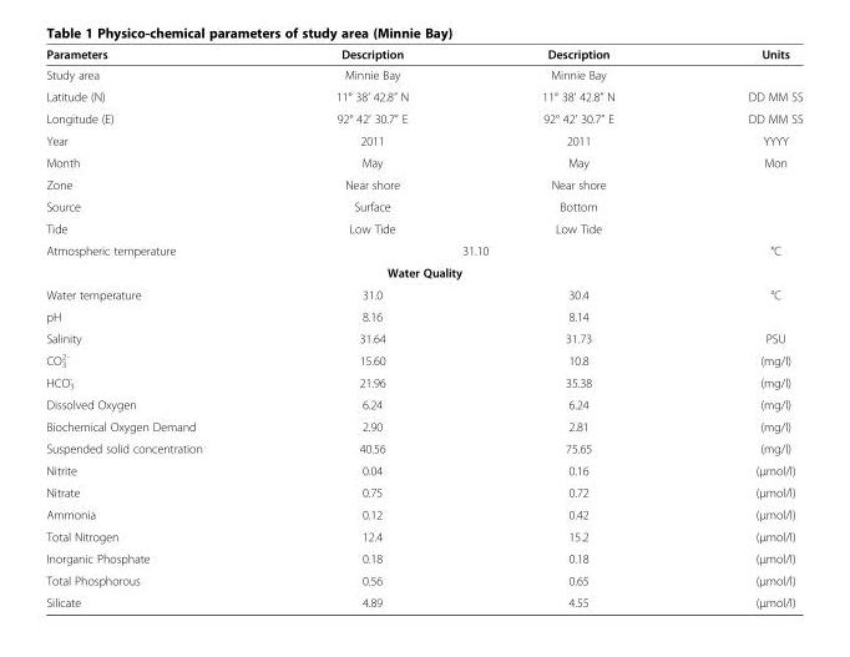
<table><thead><tr><td>Parameters</td><td>Description</td><td>Description</td><td>Units</td></tr></thead><tbody><tr><td>Study area</td><td>Minnie Bay</td><td>Minnie Bay</td><td></td></tr><tr><td>Latitude (N)</td><td>11° 38’ 42.8” N</td><td>11° 38’ 42.8” N</td><td>DD MM SS</td></tr><tr><td>Longitude (E)</td><td>92° 42’ 30.7” E</td><td>92° 42’ 30.7” E</td><td>DD MM SS</td></tr><tr><td>Year</td><td>2011</td><td>2011</td><td>YYYY</td></tr><tr><td>Month</td><td>May</td><td>May</td><td>Mon</td></tr><tr><td>Zone</td><td>Near shore</td><td>Near shore</td><td></td></tr><tr><td>Source</td><td>Surface</td><td>Bottom</td><td></td></tr><tr><td>Tide</td><td>Low Tide</td><td>Low Tide</td><td></td></tr><tr><td>Atmospheric temperature</td><td colspan="2">31.10</td><td>°C</td></tr><tr><td colspan="4">Water Quality</td></tr><tr><td>Water temperature</td><td>31.0</td><td>30.4</td><td>°C</td></tr><tr><td>pH</td><td>8.16</td><td>8.14</td><td></td></tr><tr><td>Salinity</td><td>31.64</td><td>31.73</td><td>PSU</td></tr><tr><td>CO<sub>3</sub> <sup>2-</sup></td><td>15.60</td><td>10.8</td><td>(mg/l)</td></tr><tr><td>HCO<sub>3</sub> <sup>-</sup></td><td>21.96</td><td>35.38</td><td>(mg/l)</td></tr><tr><td>Dissolved Oxygen</td><td>6.24</td><td>6.24</td><td>(mg/l)</td></tr><tr><td>Biochemical Oxygen Demand</td><td>2.90</td><td>2.81</td><td>(mg/l)</td></tr><tr><td>Suspended solid concentration</td><td>40.56</td><td>75.65</td><td>(mg/l)</td></tr><tr><td>Nitrite</td><td>0.04</td><td>0.16</td><td>(μmol/l)</td></tr><tr><td>Nitrate</td><td>0.75</td><td>0.72</td><td>(μmol/l)</td></tr><tr><td>Ammonia</td><td>0.12</td><td>0.42</td><td>(μmol/l)</td></tr><tr><td>Total Nitrogen</td><td>12.4</td><td>15.2</td><td>(μmol/l)</td></tr><tr><td>Inorganic Phosphate</td><td>0.18</td><td>0.18</td><td>(μmol/l)</td></tr><tr><td>Total Phosphorous</td><td>0.56</td><td>0.65</td><td>(μmol/l)</td></tr><tr><td>Silicate</td><td>4.89</td><td>4.55</td><td>(μmol/l)</td></tr></tbody></table>